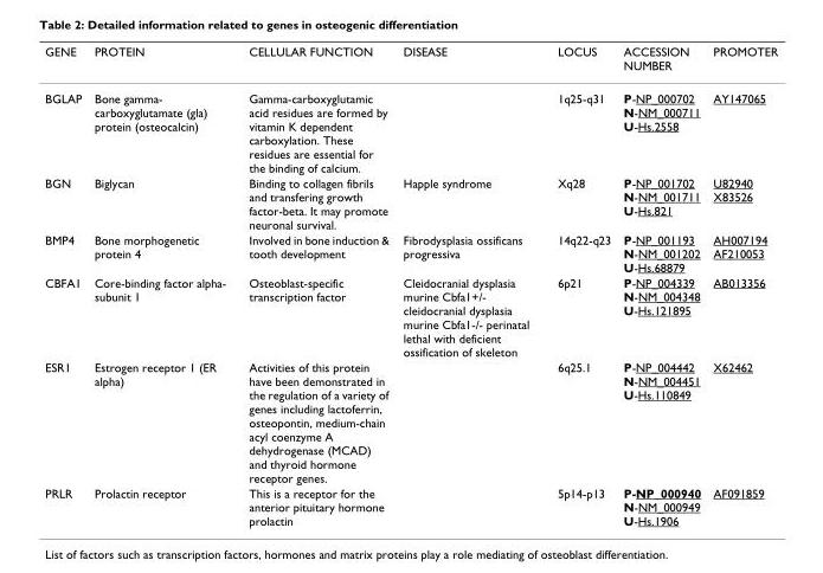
<table><thead><tr><td>GENE</td><td>PROTEIN</td><td>CELLULAR FUNCTION</td><td>DISEASE</td><td>LOCUS</td><td>ACCESSION NUMBER</td><td>PROMOTER</td></tr></thead><tbody><tr><td>BGLAP</td><td>Bone gamma- carboxyglutamate (gla) protein (osteocalcin)</td><td>Gamma-carboxyglutamic acid residues are formed by vitamin K dependent carboxylation. These residues are essential for the binding of calcium.</td><td></td><td>1q25-q31</td><td>P-NP_000702 N-NM_000711 U-Hs.2558</td><td>AY147065</td></tr><tr><td>BGN</td><td>Biglycan</td><td>Binding to collagen fibrils and transfering growth factor-beta. It may promote neuronal survival.</td><td>Happle syndrome</td><td>Xq28</td><td>P-NP_001702 N-NM_001711 U-Hs.821</td><td>U82940 X83526</td></tr><tr><td>BMP4</td><td>Bone morphogenetic protein 4</td><td>Involved in bone induction &amp; tooth development</td><td>Fibrodysplasia ossificans progressiva</td><td>14q22-q23</td><td>P-NP_001193 N-NM_001202 U-Hs.68879</td><td>AH007194 AF210053</td></tr><tr><td>CBFA1</td><td>Core-binding factor alpha- subunit 1</td><td>Osteoblast-specific transcription factor</td><td>Cleidocranial dysplasia murine Cbfa1+/- cleidocranial dysplasia murine Cbfa1-/- perinatal lethal with deficient ossification of skeleton</td><td>6p21</td><td>P-NP_004339 N-NM_004348 U-Hs.121895</td><td>AB013356</td></tr><tr><td>ESR1</td><td>Estrogen receptor 1 (ER alpha)</td><td>Activities of this protein have been demonstrated in the regulation of a variety of genes including lactoferrin, osteopontin, medium-chain acyl coenzyme A dehydrogenase (MCAD) and thyroid hormone receptor genes.</td><td></td><td>6q25.1</td><td>P-NP_004442 N-NM_004451 U-Hs.110849</td><td>X62462</td></tr><tr><td>PRLR</td><td>Prolactin receptor</td><td>This is a receptor for the anterior pituitary hormone prolactin</td><td></td><td>5p14-p13</td><td>P-NP_000940 N-NM_000949 U-Hs.1906</td><td>AF091859</td></tr></tbody></table>